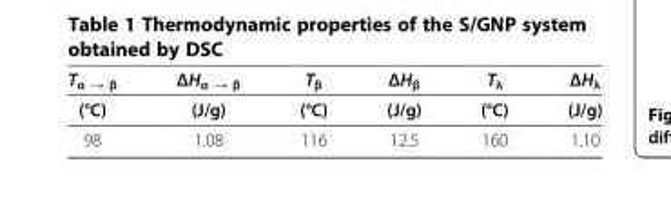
<table><thead><tr><td>T<sub>α → β</sub></td><td>ΔH<sub>α → β</sub></td><td>T<sub>β</sub></td><td>ΔH<sub>β</sub></td><td>T<sub>λ</sub></td><td>ΔH<sub>λ</sub></td></tr></thead><tbody><tr><td>(°C)</td><td>(J/g)</td><td>(°C)</td><td>(J/g)</td><td>(°C)</td><td>(J/g)</td></tr><tr><td>98</td><td>1.08</td><td>116</td><td>12.5</td><td>160</td><td>1.10</td></tr></tbody></table>